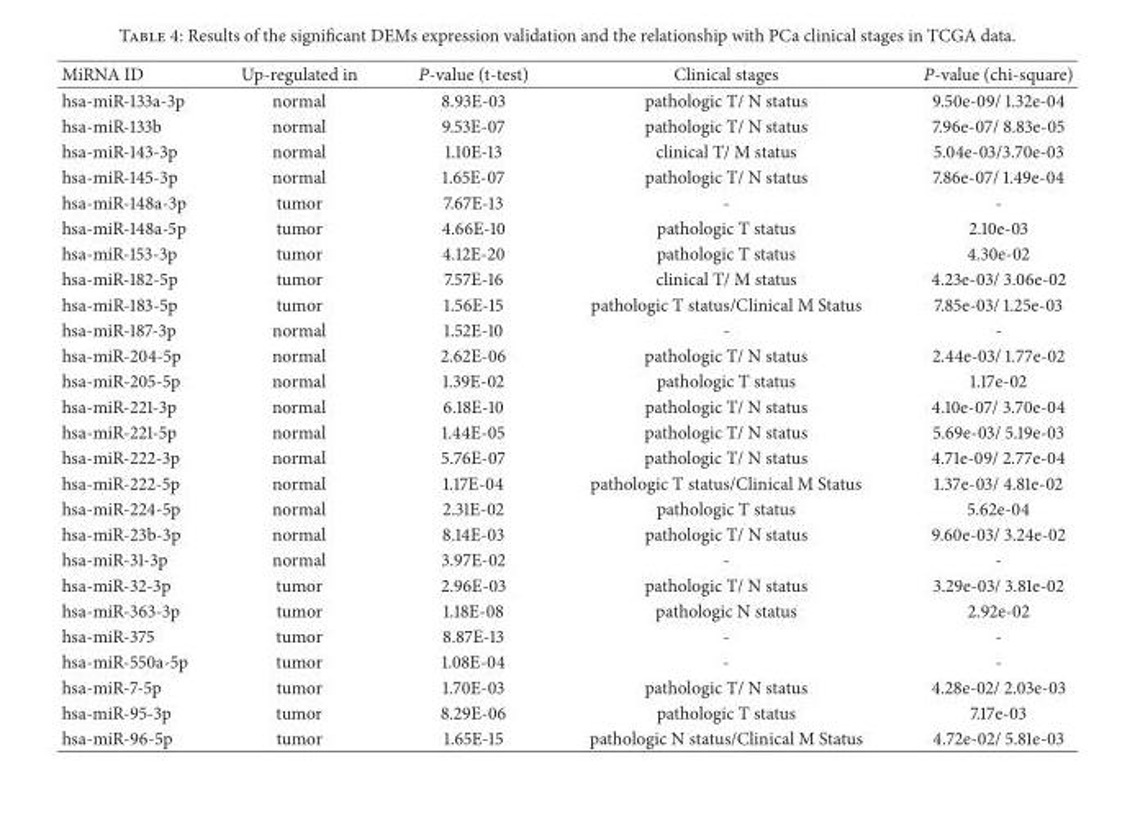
<table><thead><tr><td>MiRNA ID</td><td>Up-regulated in</td><td>P-value (t-test)</td><td>Clinical stages</td><td>P-value (chi-square)</td></tr></thead><tbody><tr><td>hsa-miR-133a-3p</td><td>normal</td><td>8.93E-03</td><td>pathologic T/ N status</td><td>9.50e-09/ 1.32e-04</td></tr><tr><td>hsa-miR-133b</td><td>normal</td><td>9.53E-07</td><td>pathologic T/ N status</td><td>7.96e-07/ 8.83e-05</td></tr><tr><td>hsa-miR-143-3p</td><td>normal</td><td>1.10E-13</td><td>clinical T/ M status</td><td>5.04e-03/3.70e-03</td></tr><tr><td>hsa-miR-145-3p</td><td>normal</td><td>1.65E-07</td><td>pathologic T/ N status</td><td>7.86e-07/ 1.49e-04</td></tr><tr><td>hsa-miR-148a-3p</td><td>tumor</td><td>7.67E-13</td><td>-</td><td>-</td></tr><tr><td>hsa-miR-148a-5p</td><td>tumor</td><td>4.66E-10</td><td>pathologic T status</td><td>2.10e-03</td></tr><tr><td>hsa-miR-153-3p</td><td>tumor</td><td>4.12E-20</td><td>pathologic T status</td><td>4.30e-02</td></tr><tr><td>hsa-miR-182-5p</td><td>tumor</td><td>7.57E-16</td><td>clinical T/ M status</td><td>4.23e-03/ 3.06e-02</td></tr><tr><td>hsa-miR-183-5p</td><td>tumor</td><td>1.56E-15</td><td>pathologic T status/Clinical M Status</td><td>7.85e-03/ 1.25e-03</td></tr><tr><td>hsa-miR-187-3p</td><td>normal</td><td>1.52E-10</td><td>-</td><td>-</td></tr><tr><td>hsa-miR-204-5p</td><td>normal</td><td>2.62E-06</td><td>pathologic T/ N status</td><td>2.44e-03/ 1.77e-02</td></tr><tr><td>hsa-miR-205-5p</td><td>normal</td><td>1.39E-02</td><td>pathologic T status</td><td>1.17e-02</td></tr><tr><td>hsa-miR-221-3p</td><td>normal</td><td>6.18E-10</td><td>pathologic T/ N status</td><td>4.10e-07/ 3.70e-04</td></tr><tr><td>hsa-miR-221-5p</td><td>normal</td><td>1.44E-05</td><td>pathologic T/ N status</td><td>5.69e-03/ 5.19e-03</td></tr><tr><td>hsa-miR-222-3p</td><td>normal</td><td>5.76E-07</td><td>pathologic T/ N status</td><td>4.71e-09/ 2.77e-04</td></tr><tr><td>hsa-miR-222-5p</td><td>normal</td><td>1.17E-04</td><td>pathologic T status/Clinical M Status</td><td>1.37e-03/ 4.81e-02</td></tr><tr><td>hsa-miR-224-5p</td><td>normal</td><td>2.31E-02</td><td>pathologic T status</td><td>5.62e-04</td></tr><tr><td>hsa-miR-23b-3p</td><td>normal</td><td>8.14E-03</td><td>pathologic T/ N status</td><td>9.60e-03/ 3.24e-02</td></tr><tr><td>hsa-miR-31-3p</td><td>normal</td><td>3.97E-02</td><td>-</td><td>-</td></tr><tr><td>hsa-miR-32-3p</td><td>tumor</td><td>2.96E-03</td><td>pathologic T/ N status</td><td>3.29e-03/ 3.81e-02</td></tr><tr><td>hsa-miR-363-3p</td><td>tumor</td><td>1.18E-08</td><td>pathologic N status</td><td>2.92e-02</td></tr><tr><td>hsa-miR-375</td><td>tumor</td><td>8.87E-13</td><td>-</td><td>-</td></tr><tr><td>hsa-miR-550a-5p</td><td>tumor</td><td>1.08E-04</td><td>-</td><td>-</td></tr><tr><td>hsa-miR-7-5p</td><td>tumor</td><td>1.70E-03</td><td>pathologic T/ N status</td><td>4.28e-02/ 2.03e-03</td></tr><tr><td>hsa-miR-95-3p</td><td>tumor</td><td>8.29E-06</td><td>pathologic T status</td><td>7.17e-03</td></tr><tr><td>hsa-miR-96-5p</td><td>tumor</td><td>1.65E-15</td><td>pathologic N status/Clinical M Status</td><td>4.72e-02/ 5.81e-03</td></tr></tbody></table>